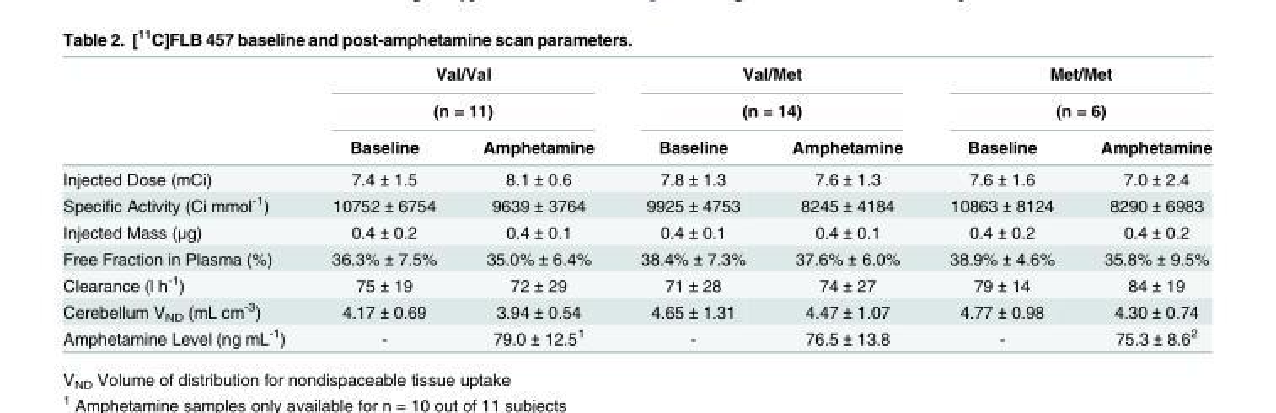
<table><thead><tr><td rowspan="3"></td><td rowspan="2" colspan="2">Val/Val (n = 11)</td><td rowspan="2" colspan="2">Val/Met (n = 14)</td><td rowspan="2" colspan="2">Met/Met (n = 6)</td></tr><tr></tr><tr><td>Baseline</td><td>Amphetamine</td><td>Baseline</td><td>Amphetamine</td><td>Baseline</td><td>Amphetamine</td></tr></thead><tbody><tr><td>Injected Dose (mCi)</td><td>7.4 ± 1.5</td><td>8.1 ± 0.6</td><td>7.8 ± 1.3</td><td>7.6 ± 1.3</td><td>7.6 ± 1.6</td><td>7.0 ± 2.4</td></tr><tr><td>Specific Activity (Ci mmol<sup>-1</sup>)</td><td>10752 ± 6754</td><td>9639 ± 3764</td><td>9925 ± 4753</td><td>8245 ± 4184</td><td>10863 ± 8124</td><td>8290 ± 6983</td></tr><tr><td>Injected Mass (μg)</td><td>0.4 ± 0.2</td><td>0.4 ± 0.1</td><td>0.4 ± 0.1</td><td>0.4 ± 0.1</td><td>0.4 ± 0.2</td><td>0.4 ± 0.2</td></tr><tr><td>Free Fraction in Plasma (%)</td><td>36.3% ± 7.5%</td><td>35.0% ± 6.4%</td><td>38.4% ± 7.3%</td><td>37.6% ± 6.0%</td><td>38.9% ± 4.6%</td><td>35.8% ± 9.5%</td></tr><tr><td>Clearance (l h<sup>-1</sup>)</td><td>75 ± 19</td><td>72 ± 29</td><td>71 ± 28</td><td>74 ± 27</td><td>79 ± 14</td><td>84 ± 19</td></tr><tr><td>Cerebellum V<sub>ND</sub> (mL cm<sup>-3</sup>)</td><td>4.17 ± 0.69</td><td>3.94 ± 0.54</td><td>4.65 ± 1.31</td><td>4.47 ± 1.07</td><td>4.77 ± 0.98</td><td>4.30 ± 0.74</td></tr><tr><td>Amphetamine Level (ng mL<sup>-1</sup>)</td><td>-</td><td>79.0 ± 12.5<sup>1</sup></td><td>-</td><td>76.5 ± 13.8</td><td>-</td><td>75.3 ± 8.6<sup>2</sup></td></tr></tbody></table>